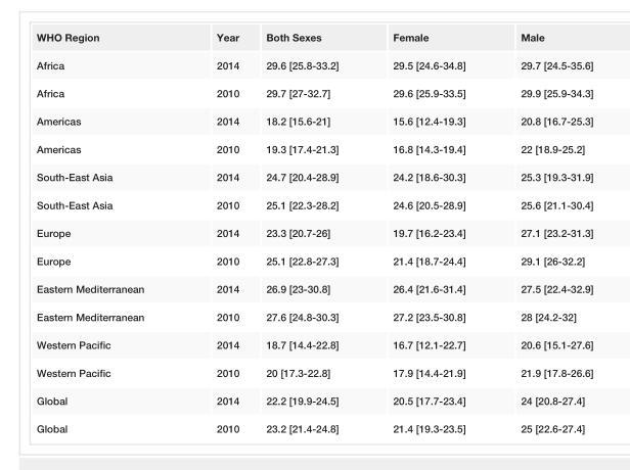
<table><tbody><tr><td>WHO Region</td><td>Year</td><td>Both Sexes</td><td>Female</td><td>Male</td></tr><tr><td>Africa</td><td>2014</td><td>29.6 [25.8-33.2]</td><td>29.5 [24.6-34.8]</td><td>29.7 [24.5-35.6]</td></tr><tr><td>Africa</td><td>2010</td><td>29.7 [27-32.7]</td><td>29.6 [25.9-33.5]</td><td>29.9 [25.9-34.3]</td></tr><tr><td>Americas</td><td>2014</td><td>18.2 [15.6-21]</td><td>15.6 [12.4-19.3]</td><td>20.8 [16.7-25.3]</td></tr><tr><td>Americas</td><td>2010</td><td>19.3 [17.4-21.3]</td><td>16.8 [14.3-19.4]</td><td>22 [18.9-25.2]</td></tr><tr><td>South-East Asia</td><td>2014</td><td>24.7 [20.4-28.9]</td><td>24.2 [18.6-30.3]</td><td>25.3 [19.3-31.9]</td></tr><tr><td>South-East Asia</td><td>2010</td><td>25.1 [22.3-28.2]</td><td>24.6 [20.5-28.9]</td><td>25.6 [21.1-30.4]</td></tr><tr><td>Europe</td><td>2014</td><td>23.3 [20.7-26]</td><td>19.7 [16.2-23.4]</td><td>27.1 [23.2-31.3]</td></tr><tr><td>Europe</td><td>2010</td><td>25.1 [22.8-27.3]</td><td>21.4 [18.7-24.4]</td><td>29.1 [26-32.2]</td></tr><tr><td>Eastern Mediterranean</td><td>2014</td><td>26.9 [23-30.8]</td><td>26.4 [21.6-31.4]</td><td>27.5 [22.4-32.9]</td></tr><tr><td>Eastern Mediterranean</td><td>2010</td><td>27.6 [24.8-30.3]</td><td>27.2 [23.5-30.8]</td><td>28 [24.2-32]</td></tr><tr><td>Western Pacific</td><td>2014</td><td>18.7 [14.4-22.8]</td><td>16.7 [12.1-22.7]</td><td>20.6 [15.1-27.6]</td></tr><tr><td>Western Pacific</td><td>2010</td><td>20 [17.3-22.8]</td><td>17.9 [14.4-21.9]</td><td>21.9 [17.8-26.6]</td></tr><tr><td>Global</td><td>2014</td><td>22.2 [19.9-24.5]</td><td>20.5 [17.7-23.4]</td><td>24 [20.8-27.4]</td></tr><tr><td>Global</td><td>2010</td><td>23.2 [21.4-24.8]</td><td>21.4 [19.3-23.5]</td><td>25 [22.6-27.4]</td></tr></tbody></table>